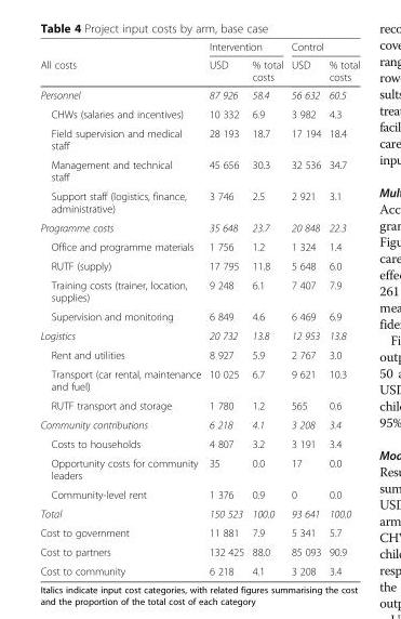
<table><thead><tr><td rowspan="2">All costs</td><td colspan="2">Intervention</td><td colspan="2">Control</td></tr><tr><td>USD</td><td>% total costs</td><td>USD</td><td>% total costs</td></tr></thead><tbody><tr><td>Personnel</td><td>87 926</td><td>58.4</td><td>56 632</td><td>60.5</td></tr><tr><td>CHWs (salaries and incentives)</td><td>10 332</td><td>6.9</td><td>3 982</td><td>4.3</td></tr><tr><td>Field supervision and medical staff</td><td>28 193</td><td>18.7</td><td>17 194</td><td>18.4</td></tr><tr><td>Management and technical staff</td><td>45 656</td><td>30.3</td><td>32 536</td><td>34.7</td></tr><tr><td>Support staff (logistics, finance, administrative)</td><td>3 746</td><td>2.5</td><td>2 921</td><td>3.1</td></tr><tr><td>Programme costs</td><td>35 648</td><td>23.7</td><td>20 848</td><td>22.3</td></tr><tr><td>Office and programme materials</td><td>1 756</td><td>1.2</td><td>1 324</td><td>1.4</td></tr><tr><td>RUTF (supply)</td><td>17 795</td><td>11.8</td><td>5 648</td><td>6.0</td></tr><tr><td>Training costs (trainer, location, supplies)</td><td>9 248</td><td>6.1</td><td>7 407</td><td>7.9</td></tr><tr><td>Supervision and monitoring</td><td>6 849</td><td>4.6</td><td>6 469</td><td>6.9</td></tr><tr><td>Logistics</td><td>20 732</td><td>13.8</td><td>12 953</td><td>13.8</td></tr><tr><td>Rent and utilities</td><td>8 927</td><td>5.9</td><td>2 767</td><td>3.0</td></tr><tr><td>Transport (car rental, maintenance and fuel)</td><td>10 025</td><td>6.7</td><td>9 621</td><td>10.3</td></tr><tr><td>RUTF transport and storage</td><td>1 780</td><td>1.2</td><td>565</td><td>0.6</td></tr><tr><td>Community contributions</td><td>6 218</td><td>4.1</td><td>3 208</td><td>3.4</td></tr><tr><td>Costs to households</td><td>4 807</td><td>3.2</td><td>3 191</td><td>3.4</td></tr><tr><td>Opportunity costs for community leaders</td><td>35</td><td>0.0</td><td>17</td><td>0.0</td></tr><tr><td>Community-level rent</td><td>1 376</td><td>0.9</td><td>0</td><td>0.0</td></tr><tr><td>Total</td><td>150 523</td><td>100.0</td><td>93 641</td><td>100.0</td></tr><tr><td>Cost to government</td><td>11 881</td><td>7.9</td><td>5 341</td><td>5.7</td></tr><tr><td>Cost to partners</td><td>132 425</td><td>88.0</td><td>85 093</td><td>90.9</td></tr><tr><td>Cost to community</td><td>6 218</td><td>4.1</td><td>3 208</td><td>3.4</td></tr></tbody></table>